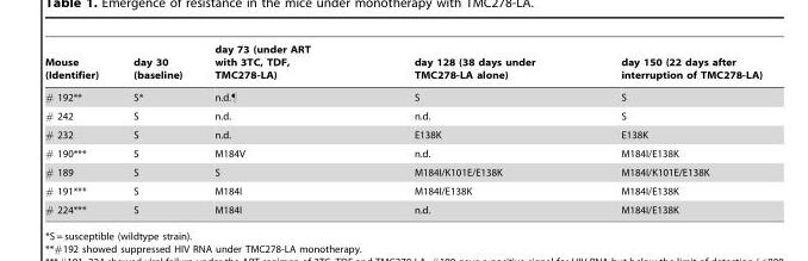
<table><thead><tr><td>Mouse (Identifier)</td><td>day 30 (baseline)</td><td>day 73 (under ART with 3TC, TDF, TMC278-LA)</td><td>day 128 (38 days under TMC278-LA alone)</td><td>day 150 (22 days after interruption of TMC278-LA)</td></tr></thead><tbody><tr><td># 192**</td><td>S*</td><td>n.d.¶</td><td>S</td><td>S</td></tr><tr><td># 242</td><td>S</td><td>n.d.</td><td>n.d.</td><td>S</td></tr><tr><td># 232</td><td>S</td><td>n.d.</td><td>E138K</td><td>E138K</td></tr><tr><td># 190***</td><td>S</td><td>M184V</td><td>n.d.</td><td>M184I/E138K</td></tr><tr><td># 189</td><td>S</td><td>S</td><td>M184I/K101E/E138K</td><td>M184I/K101E/E138K</td></tr><tr><td># 191***</td><td>S</td><td>M184I</td><td>M184I/E138K</td><td>M184I/E138K</td></tr><tr><td># 224***</td><td>S</td><td>M184I</td><td>n.d.</td><td>M184I/E138K</td></tr></tbody></table>